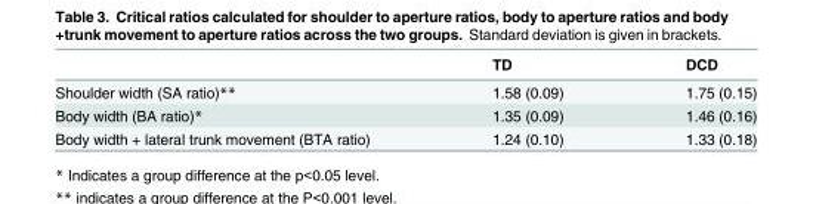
<table><thead><tr><td></td><td>TD</td><td>DCD</td></tr></thead><tbody><tr><td>Shoulder width (SA ratio)**</td><td>1.58 (0.09)</td><td>1.75 (0.15)</td></tr><tr><td>Body width (BA ratio)*</td><td>1.35 (0.09)</td><td>1.46 (0.16)</td></tr><tr><td>Body width + lateral trunk movement (BTA ratio)</td><td>1.24 (0.10)</td><td>1.33 (0.18)</td></tr></tbody></table>